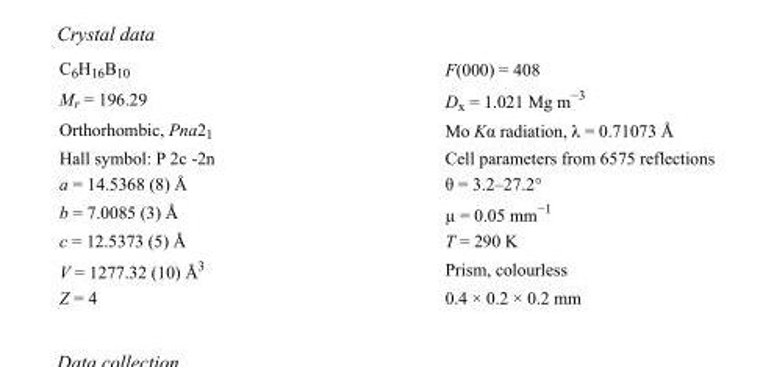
<table><tbody><tr><td>C<sub>6</sub>H<sub>16</sub>B<sub>10</sub></td><td>F(000) = 408</td></tr><tr><td>M<sub>r</sub> = 196.29</td><td>D<sub>x</sub> = 1.021 Mg m<sup>−3</sup></td></tr><tr><td>Orthorhombic, Pna2<sub>1</sub></td><td>Mo Kα radiation, λ = 0.71073 Å</td></tr><tr><td>Hall symbol: P 2c -2n</td><td>Cell parameters from 6575 reflections</td></tr><tr><td>a = 14.5368 (8) Å</td><td>θ = 3.2–27.2°</td></tr><tr><td>b = 7.0085 (3) Å</td><td>µ = 0.05 mm<sup>−1</sup></td></tr><tr><td>c = 12.5373 (5) Å</td><td>T = 290 K</td></tr><tr><td>V = 1277.32 (10) Å<sup>3</sup></td><td>Prism, colourless</td></tr><tr><td>Z = 4</td><td>0.4 × 0.2 × 0.2 mm</td></tr></tbody></table>